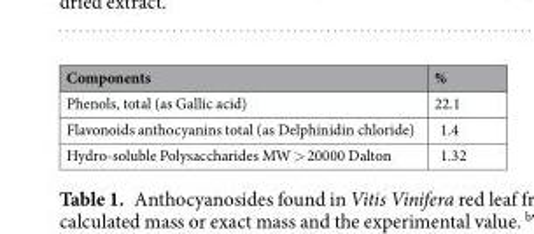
<table><thead><tr><td>Components</td><td>%</td></tr></thead><tbody><tr><td>Phenols, total (as Gallic acid)</td><td>22.1</td></tr><tr><td>Flavonoids anthocyanins total (as Delphinidin chloride)</td><td>1.4</td></tr><tr><td>Hydro-soluble Polysaccharides MW &gt; 20000 Dalton</td><td>1.32</td></tr></tbody></table>